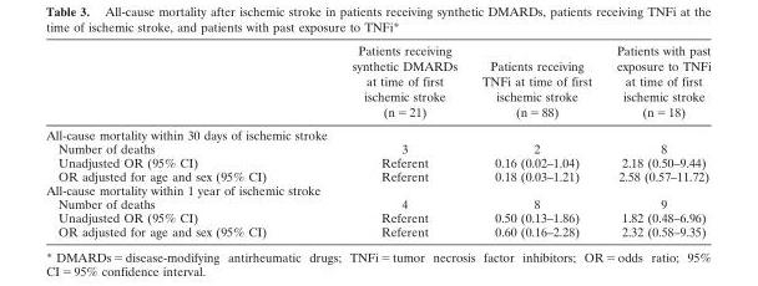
<table><thead><tr><td></td><td>Patients receiving synthetic DMARDs at time of first ischemic stroke (n = 21)</td><td>Patients receiving TNFi at time of first ischemic stroke (n = 88)</td><td>Patients with past exposure to TNFi at time of first ischemic stroke (n = 18)</td></tr></thead><tbody><tr><td colspan="4">All-cause mortality within 30 days of ischemic stroke</td></tr><tr><td>Number of deaths</td><td>3</td><td>2</td><td>8</td></tr><tr><td>Unadjusted OR (95% CI)</td><td>Referent</td><td>0.16 (0.02–1.04)</td><td>2.18 (0.50–9.44)</td></tr><tr><td>OR adjusted for age and sex (95% CI)</td><td>Referent</td><td>0.18 (0.03–1.21)</td><td>2.58 (0.57–11.72)</td></tr><tr><td colspan="4">All-cause mortality within 1 year of ischemic stroke</td></tr><tr><td>Number of deaths</td><td>4</td><td>8</td><td>9</td></tr><tr><td>Unadjusted OR (95% CI)</td><td>Referent</td><td>0.50 (0.13–1.86)</td><td>1.82 (0.48–6.96)</td></tr><tr><td>OR adjusted for age and sex (95% CI)</td><td>Referent</td><td>0.60 (0.16–2.28)</td><td>2.32 (0.58–9.35)</td></tr></tbody></table>